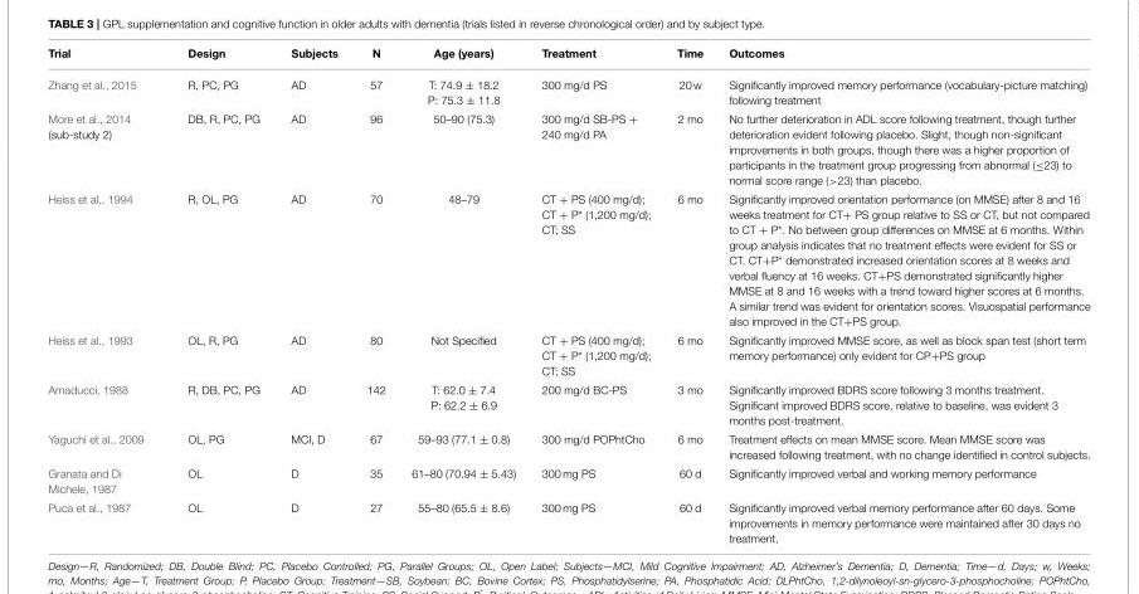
<table><thead><tr><td>Trial</td><td>Design</td><td>Subjects</td><td>N</td><td>Age (years)</td><td>Treatment</td><td>Time</td><td>Outcomes</td></tr></thead><tbody><tr><td>Zhang et al., 2015</td><td>R, PC, PG</td><td>AD</td><td>57</td><td>T: 74.9 ± 18.2 P: 75.3 ± 11.8</td><td>300 mg/d PS</td><td>20 w</td><td>Significantly improved memory performance (vocabulary-picture matching) following treatment</td></tr><tr><td>More et al., 2014 (sub-study 2)</td><td>DB, R, PC, PG</td><td>AD</td><td>96</td><td>50–90 (75.3)</td><td>300 mg/d SB-PS + 240 mg/d PA</td><td>2 mo</td><td>No further deterioration in ADL score following treatment, though further deterioration evident following placebo. Slight, though non-significant improvements in both groups, though there was a higher proportion of participants in the treatment group progressing from abnormal (≤23) to normal score range (&gt;23) than placebo.</td></tr><tr><td>Heiss et al., 1994</td><td>R, OL, PG</td><td>AD</td><td>70</td><td>48–79</td><td>CT + PS (400 mg/d); CT + P* (1,200 mg/d); CT; SS</td><td>6 mo</td><td>Significantly improved orientation performance (on MMSE) after 8 and 16 weeks treatment for CT+ PS group relative to SS or CT, but not compared to CT + P*. No between group differences on MMSE at 6 months. Within group analysis indicates that no treatment effects were evident for SS or CT. CT+P* demonstrated increased orientation scores at 8 weeks and verbal fluency at 16 weeks. CT+PS demonstrated significantly higher MMSE at 8 and 16 weeks with a trend toward higher scores at 6 months. A similar trend was evident for orientation scores. Visuospatial performance also improved in the CT+PS group.</td></tr><tr><td>Heiss et al., 1993</td><td>OL, R, PG</td><td>AD</td><td>80</td><td>Not Specified</td><td>CT + PS (400 mg/d); CT + P* (1,200 mg/d); CT; SS</td><td>6 mo</td><td>Significantly improved MMSE score, as well as block span test (short term memory performance) only evident for CP+PS group</td></tr><tr><td>Amaducci, 1988</td><td>R, DB, PC, PG</td><td>AD</td><td>142</td><td>T: 62.0 ± 7.4 P: 62.2 ± 6.9</td><td>200 mg/d BC-PS</td><td>3 mo</td><td>Significantly improved BDRS score following 3 months treatment. Significant improved BDRS score, relative to baseline, was evident 3 months post-treatment.</td></tr><tr><td>Yaguchi et al., 2009</td><td>OL, PG</td><td>MCI, D</td><td>67</td><td>59–93 (77.1 ± 0.8)</td><td>300 mg/d POPhtCho</td><td>6 mo</td><td>Treatment effects on mean MMSE score. Mean MMSE score was increased following treatment, with no change identified in control subjects.</td></tr><tr><td>Granata and Di Michele, 1987</td><td>OL</td><td>D</td><td>35</td><td>61–80 (70.94 ± 5.43)</td><td>300 mg PS</td><td>60 d</td><td>Significantly improved verbal and working memory performance</td></tr><tr><td>Puca et al., 1987</td><td>OL</td><td>D</td><td>27</td><td>55–80 (65.5 ± 8.6)</td><td>300 mg PS</td><td>60 d</td><td>Significantly improved verbal memory performance after 60 days. Some improvements in memory performance were maintained after 30 days no treatment.</td></tr></tbody></table>